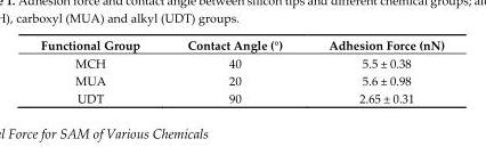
<table><thead><tr><td>Functional Group</td><td>Contact Angle (°)</td><td>Adhesion Force (nN)</td></tr></thead><tbody><tr><td>MCH</td><td>40</td><td>5.5 ± 0.38</td></tr><tr><td>MUA</td><td>20</td><td>5.6 ± 0.98</td></tr><tr><td>UDT</td><td>90</td><td>2.65 ± 0.31</td></tr></tbody></table>